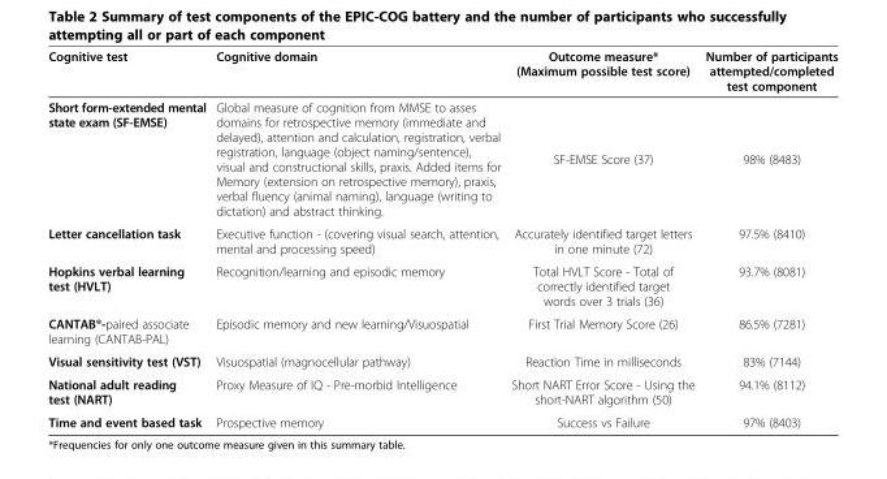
<table><thead><tr><td>Cognitive test</td><td>Cognitive domain</td><td>Outcome measure* (Maximum possible test score)</td><td>Number of participants attempted/completed test component</td></tr></thead><tbody><tr><td>Short form-extended mental state exam (SF-EMSE)</td><td>Global measure of cognition from MMSE to asses domains for retrospective memory (immediate and delayed), attention and calculation, registration, verbal registration, language (object naming/sentence), visual and constructional skills, praxis. Added items for Memory (extension on retrospective memory), praxis, verbal fluency (animal naming), language (writing to dictation) and abstract thinking.</td><td>SF-EMSE Score (37)</td><td>98% (8483)</td></tr><tr><td>Letter cancellation task</td><td>Executive function - (covering visual search, attention, mental and processing speed)</td><td>Accurately identified target letters in one minute (72)</td><td>97.5% (8410)</td></tr><tr><td>Hopkins verbal learning test (HVLT)</td><td>Recognition/learning and episodic memory</td><td>Total HVLT Score - Total of correctly identified target words over 3 trials (36)</td><td>93.7% (8081)</td></tr><tr><td>CANTAB®-paired associate learning (CANTAB-PAL)</td><td>Episodic memory and new learning/Visuospatial</td><td>First Trial Memory Score (26)</td><td>86.5% (7281)</td></tr><tr><td>Visual sensitivity test (VST)</td><td>Visuospatial (magnocellular pathway)</td><td>Reaction Time in milliseconds</td><td>83% (7144)</td></tr><tr><td>National adult reading test (NART)</td><td>Proxy Measure of IQ - Pre-morbid Intelligence</td><td>Short NART Error Score - Using the short-NART algorithm (50)</td><td>94.1% (8112)</td></tr><tr><td>Time and event based task</td><td>Prospective memory</td><td>Success vs Failure</td><td>97% (8403)</td></tr></tbody></table>